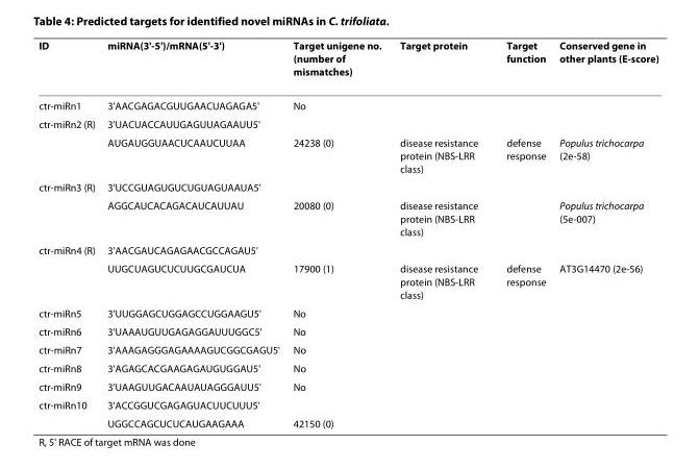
<table><thead><tr><td>ID</td><td>miRNA(3&#x27;-5&#x27;)/mRNA(5&#x27;-3&#x27;)</td><td>Target unigene no. (number of mismatches)</td><td>Target protein</td><td>Target function</td><td>Conserved gene in other plants (E-score)</td></tr></thead><tbody><tr><td>ctr-miRn1</td><td>3&#x27;AACGAGACGUUGAACUAGAGA5&#x27;</td><td>No</td><td></td><td></td><td></td></tr><tr><td rowspan="2">ctr-miRn2 (R)</td><td>3&#x27;UACUACCAUUGAGUUAGAAUU5&#x27;</td><td></td><td></td><td></td><td></td></tr><tr><td>AUGAUGGUAACUCAAUCUUAA</td><td>24238 (0)</td><td>disease resistance protein (NBS-LRR class)</td><td>defense response</td><td>Populus trichocarpa (2e-58)</td></tr><tr><td rowspan="2">ctr-miRn3 (R)</td><td>3&#x27;UCCGUAGUGUCUGUAGUAAUA5&#x27;</td><td></td><td></td><td></td><td></td></tr><tr><td>AGGCAUCACAGACAUCAUUAU</td><td>20080 (0)</td><td>disease resistance protein (NBS-LRR class)</td><td></td><td>Populus trichocarpa (5e-007)</td></tr><tr><td rowspan="2">ctr-miRn4 (R)</td><td>3&#x27;AACGAUCAGAGAACGCCAGAU5&#x27;</td><td></td><td></td><td></td><td></td></tr><tr><td>UUGCUAGUCUCUUGCGAUCUA</td><td>17900 (1)</td><td>disease resistance protein (NBS-LRR class)</td><td>defense response</td><td>AT3G14470 (2e-56)</td></tr><tr><td>ctr-miRn5</td><td>3&#x27;UUGGAGCUGGAGCCUGGAAGU5&#x27;</td><td>No</td><td></td><td></td><td></td></tr><tr><td>ctr-miRn6</td><td>3&#x27;UAAAUGUUGAGAGGAUUUGGC5&#x27;</td><td>No</td><td></td><td></td><td></td></tr><tr><td>ctr-miRn7</td><td>3&#x27;AAAGAGGGAGAAAAGUCGGCGAGU5&#x27;</td><td>No</td><td></td><td></td><td></td></tr><tr><td>ctr-miRn8</td><td>3&#x27;AGAGCACGAAGAGAUGUGGAU5&#x27;</td><td>No</td><td></td><td></td><td></td></tr><tr><td>ctr-miRn9</td><td>3&#x27;UAAGUUGACAAUAUAGGGAUU5&#x27;</td><td>No</td><td></td><td></td><td></td></tr><tr><td rowspan="2">ctr-miRn10</td><td>3&#x27;ACCGGUCGAGAGUACUUCUUU5&#x27;</td><td></td><td></td><td></td><td></td></tr><tr><td>UGGCCAGCUCUCAUGAAGAAA</td><td>42150 (0)</td><td></td><td></td><td></td></tr></tbody></table>